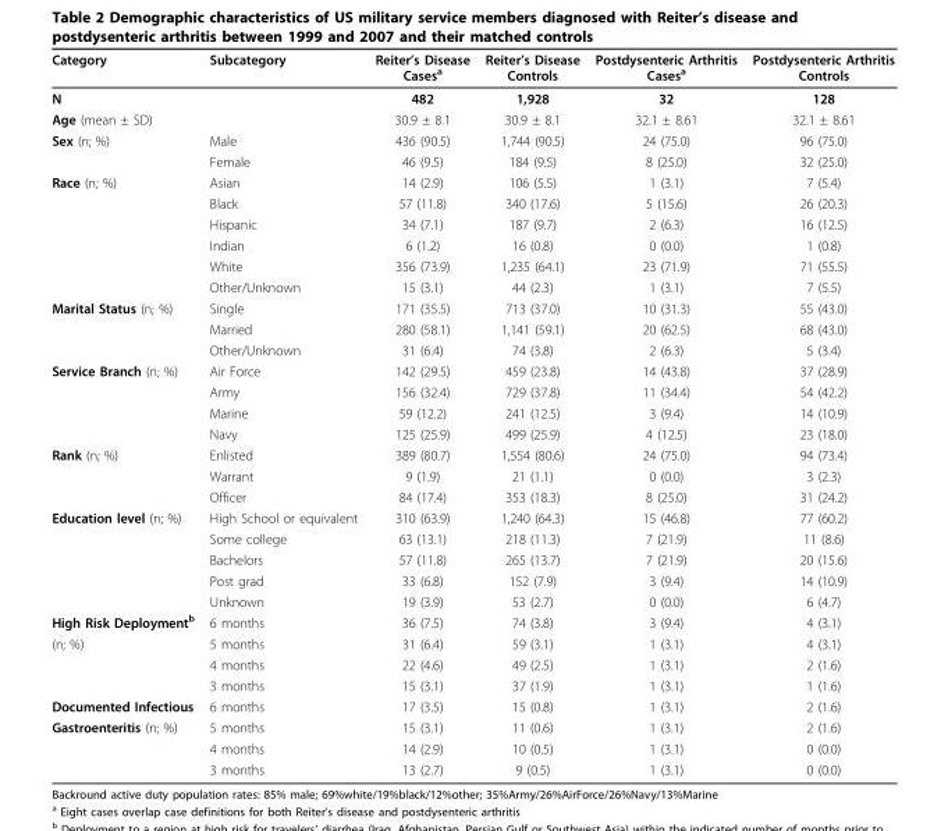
<table><thead><tr><td>Category</td><td>Subcategory</td><td>Reiter’s Disease Cases<sup>a</sup></td><td>Reiter’s Disease Controls</td><td>Postdysenteric Arthritis Cases<sup>a</sup></td><td>Postdysenteric Arthritis Controls</td></tr></thead><tbody><tr><td>N</td><td></td><td>482</td><td>1,928</td><td>32</td><td>128</td></tr><tr><td>Age (mean ± SD)</td><td></td><td>30.9 ± 8.1</td><td>30.9 ± 8.1</td><td>32.1 ± 8.61</td><td>32.1 ± 8.61</td></tr><tr><td rowspan="2">Sex (n; %)</td><td>Male</td><td>436 (90.5)</td><td>1,744 (90.5)</td><td>24 (75.0)</td><td>96 (75.0)</td></tr><tr><td>Female</td><td>46 (9.5)</td><td>184 (9.5)</td><td>8 (25.0)</td><td>32 (25.0)</td></tr><tr><td rowspan="6">Race (n; %)</td><td>Asian</td><td>14 (2.9)</td><td>106 (5.5)</td><td>1 (3.1)</td><td>7 (5.4)</td></tr><tr><td>Black</td><td>57 (11.8)</td><td>340 (17.6)</td><td>5 (15.6)</td><td>26 (20.3)</td></tr><tr><td>Hispanic</td><td>34 (7.1)</td><td>187 (9.7)</td><td>2 (6.3)</td><td>16 (12.5)</td></tr><tr><td>Indian</td><td>6 (1.2)</td><td>16 (0.8)</td><td>0 (0.0)</td><td>1 (0.8)</td></tr><tr><td>White</td><td>356 (73.9)</td><td>1,235 (64.1)</td><td>23 (71.9)</td><td>71 (55.5)</td></tr><tr><td>Other/Unknown</td><td>15 (3.1)</td><td>44 (2.3)</td><td>1 (3.1)</td><td>7 (5.5)</td></tr><tr><td rowspan="3">Marital Status (n; %)</td><td>Single</td><td>171 (35.5)</td><td>713 (37.0)</td><td>10 (31.3)</td><td>55 (43.0)</td></tr><tr><td>Married</td><td>280 (58.1)</td><td>1,141 (59.1)</td><td>20 (62.5)</td><td>68 (43.0)</td></tr><tr><td>Other/Unknown</td><td>31 (6.4)</td><td>74 (3.8)</td><td>2 (6.3)</td><td>5 (3.4)</td></tr><tr><td rowspan="4">Service Branch (n; %)</td><td>Air Force</td><td>142 (29.5)</td><td>459 (23.8)</td><td>14 (43.8)</td><td>37 (28.9)</td></tr><tr><td>Army</td><td>156 (32.4)</td><td>729 (37.8)</td><td>11 (34.4)</td><td>54 (42.2)</td></tr><tr><td>Marine</td><td>59 (12.2)</td><td>241 (12.5)</td><td>3 (9.4)</td><td>14 (10.9)</td></tr><tr><td>Navy</td><td>125 (25.9)</td><td>499 (25.9)</td><td>4 (12.5)</td><td>23 (18.0)</td></tr><tr><td rowspan="3">Rank (n; %)</td><td>Enlisted</td><td>389 (80.7)</td><td>1,554 (80.6)</td><td>24 (75.0)</td><td>94 (73.4)</td></tr><tr><td>Warrant</td><td>9 (1.9)</td><td>21 (1.1)</td><td>0 (0.0)</td><td>3 (2.3)</td></tr><tr><td>Officer</td><td>84 (17.4)</td><td>353 (18.3)</td><td>8 (25.0)</td><td>31 (24.2)</td></tr><tr><td rowspan="5">Education level (n; %)</td><td>High School or equivalent</td><td>310 (63.9)</td><td>1,240 (64.3)</td><td>15 (46.8)</td><td>77 (60.2)</td></tr><tr><td>Some college</td><td>63 (13.1)</td><td>218 (11.3)</td><td>7 (21.9)</td><td>11 (8.6)</td></tr><tr><td>Bachelors</td><td>57 (11.8)</td><td>265 (13.7)</td><td>7 (21.9)</td><td>20 (15.6)</td></tr><tr><td>Post grad</td><td>33 (6.8)</td><td>152 (7.9)</td><td>3 (9.4)</td><td>14 (10.9)</td></tr><tr><td>Unknown</td><td>19 (3.9)</td><td>53 (2.7)</td><td>0 (0.0)</td><td>6 (4.7)</td></tr><tr><td>High Risk Deployment<sup>b</sup></td><td>6 months</td><td>36 (7.5)</td><td>74 (3.8)</td><td>3 (9.4)</td><td>4 (3.1)</td></tr><tr><td rowspan="3">(n; %)</td><td>5 months</td><td>31 (6.4)</td><td>59 (3.1)</td><td>1 (3.1)</td><td>4 (3.1)</td></tr><tr><td>4 months</td><td>22 (4.6)</td><td>49 (2.5)</td><td>1 (3.1)</td><td>2 (1.6)</td></tr><tr><td>3 months</td><td>15 (3.1)</td><td>37 (1.9)</td><td>1 (3.1)</td><td>1 (1.6)</td></tr><tr><td>Documented Infectious</td><td>6 months</td><td>17 (3.5)</td><td>15 (0.8)</td><td>1 (3.1)</td><td>2 (1.6)</td></tr><tr><td rowspan="3">Gastroenteritis (n; %)</td><td>5 months</td><td>15 (3.1)</td><td>11 (0.6)</td><td>1 (3.1)</td><td>2 (1.6)</td></tr><tr><td>4 months</td><td>14 (2.9)</td><td>10 (0.5)</td><td>1 (3.1)</td><td>0 (0.0)</td></tr><tr><td>3 months</td><td>13 (2.7)</td><td>9 (0.5)</td><td>1 (3.1)</td><td>0 (0.0)</td></tr></tbody></table>